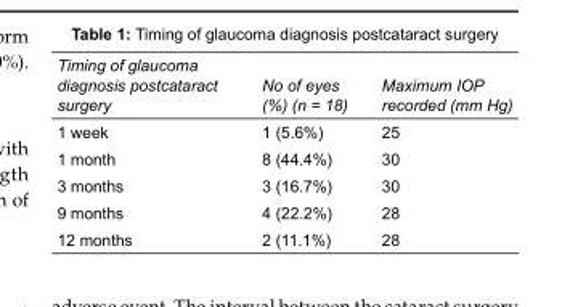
<table><tbody><tr><td>Timing of glaucoma diagnosis postcataract surgery</td><td>No of eyes (%) (n = 18)</td><td>Maximum IOP recorded (mm Hg)</td></tr><tr><td>1 week</td><td>1 (5.6%)</td><td>25</td></tr><tr><td>1 month</td><td>8 (44.4%)</td><td>30</td></tr><tr><td>3 months</td><td>3 (16.7%)</td><td>30</td></tr><tr><td>9 months</td><td>4 (22.2%)</td><td>28</td></tr><tr><td>12 months</td><td>2 (11.1%)</td><td>28</td></tr></tbody></table>